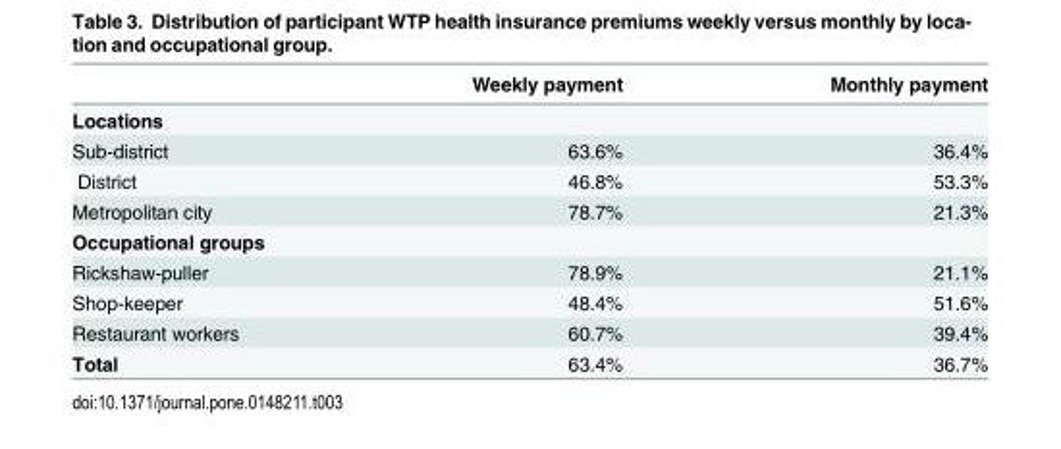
<table><thead><tr><td></td><td>Weekly payment</td><td>Monthly payment</td></tr></thead><tbody><tr><td colspan="3">Locations</td></tr><tr><td>Sub-district</td><td>63.6%</td><td>36.4%</td></tr><tr><td>District</td><td>46.8%</td><td>53.3%</td></tr><tr><td>Metropolitan city</td><td>78.7%</td><td>21.3%</td></tr><tr><td colspan="3">Occupational groups</td></tr><tr><td>Rickshaw-puller</td><td>78.9%</td><td>21.1%</td></tr><tr><td>Shop-keeper</td><td>48.4%</td><td>51.6%</td></tr><tr><td>Restaurant workers</td><td>60.7%</td><td>39.4%</td></tr><tr><td>Total</td><td>63.4%</td><td>36.7%</td></tr></tbody></table>